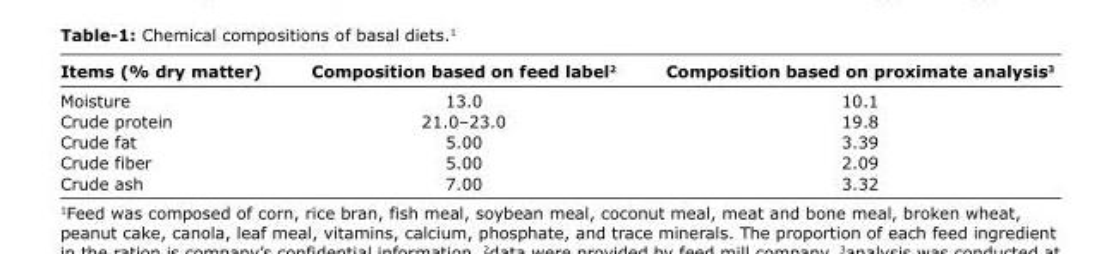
<table><thead><tr><td>Items (% dry matter)</td><td>Composition based on feed label<sup>2</sup></td><td>Composition based on proximate analysis<sup>3</sup></td></tr></thead><tbody><tr><td>Moisture</td><td>13.0</td><td>10.1</td></tr><tr><td>Crude protein</td><td>21.0–23.0</td><td>19.8</td></tr><tr><td>Crude fat</td><td>5.00</td><td>3.39</td></tr><tr><td>Crude fiber</td><td>5.00</td><td>2.09</td></tr><tr><td>Crude ash</td><td>7.00</td><td>3.32</td></tr></tbody></table>